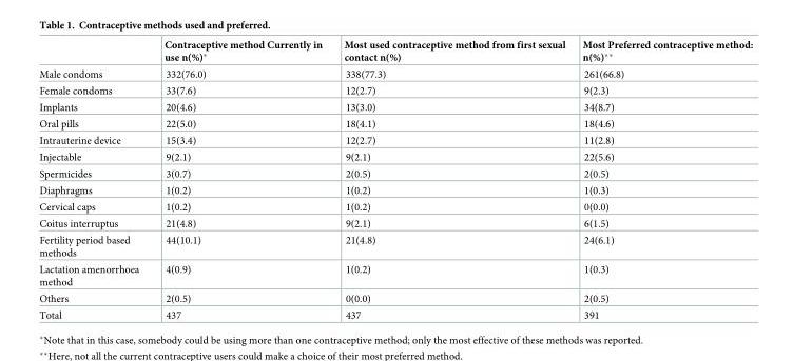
<table><thead><tr><td></td><td>Contraceptive method Currently in use n(%)*</td><td>Most used contraceptive method from first sexual contact n(%)</td><td>Most Preferred contraceptive method: n(%)**</td></tr></thead><tbody><tr><td>Male condoms</td><td>332(76.0)</td><td>338(77.3)</td><td>261(66.8)</td></tr><tr><td>Female condoms</td><td>33(7.6)</td><td>12(2.7)</td><td>9(2.3)</td></tr><tr><td>Implants</td><td>20(4.6)</td><td>13(3.0)</td><td>34(8.7)</td></tr><tr><td>Oral pills</td><td>22(5.0)</td><td>18(4.1)</td><td>18(4.6)</td></tr><tr><td>Intrauterine device</td><td>15(3.4)</td><td>12(2.7)</td><td>11(2.8)</td></tr><tr><td>Injectable</td><td>9(2.1)</td><td>9(2.1)</td><td>22(5.6)</td></tr><tr><td>Spermicides</td><td>3(0.7)</td><td>2(0.5)</td><td>2(0.5)</td></tr><tr><td>Diaphragms</td><td>1(0.2)</td><td>1(0.2)</td><td>1(0.3)</td></tr><tr><td>Cervical caps</td><td>1(0.2)</td><td>1(0.2)</td><td>0(0.0)</td></tr><tr><td>Coitus interruptus</td><td>21(4.8)</td><td>9(2.1)</td><td>6(1.5)</td></tr><tr><td>Fertility period based methods</td><td>44(10.1)</td><td>21(4.8)</td><td>24(6.1)</td></tr><tr><td>Lactation amenorrhoea method</td><td>4(0.9)</td><td>1(0.2)</td><td>1(0.3)</td></tr><tr><td>Others</td><td>2(0.5)</td><td>0(0.0)</td><td>2(0.5)</td></tr><tr><td>Total</td><td>437</td><td>437</td><td>391</td></tr></tbody></table>